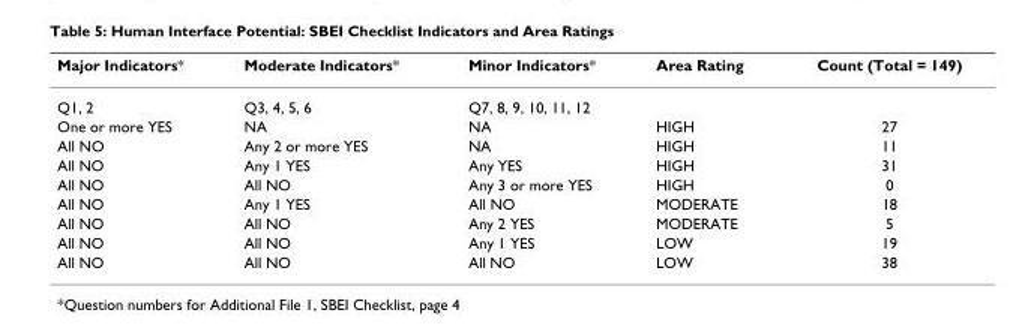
<table><thead><tr><td>Major Indicators*</td><td>Moderate Indicators*</td><td>Minor Indicators*</td><td>Area Rating</td><td>Count (Total = 149)</td></tr></thead><tbody><tr><td>Q1, 2</td><td>Q3, 4, 5, 6</td><td>Q7, 8, 9, 10, 11, 12</td><td></td><td></td></tr><tr><td>One or more YES</td><td>NA</td><td>NA</td><td>HIGH</td><td>27</td></tr><tr><td>All NO</td><td>Any 2 or more YES</td><td>NA</td><td>HIGH</td><td>11</td></tr><tr><td>All NO</td><td>Any 1 YES</td><td>Any YES</td><td>HIGH</td><td>31</td></tr><tr><td>All NO</td><td>All NO</td><td>Any 3 or more YES</td><td>HIGH</td><td>0</td></tr><tr><td>All NO</td><td>Any 1 YES</td><td>All NO</td><td>MODERATE</td><td>18</td></tr><tr><td>All NO</td><td>All NO</td><td>Any 2 YES</td><td>MODERATE</td><td>5</td></tr><tr><td>All NO</td><td>All NO</td><td>Any 1 YES</td><td>LOW</td><td>19</td></tr><tr><td>All NO</td><td>All NO</td><td>All NO</td><td>LOW</td><td>38</td></tr></tbody></table>